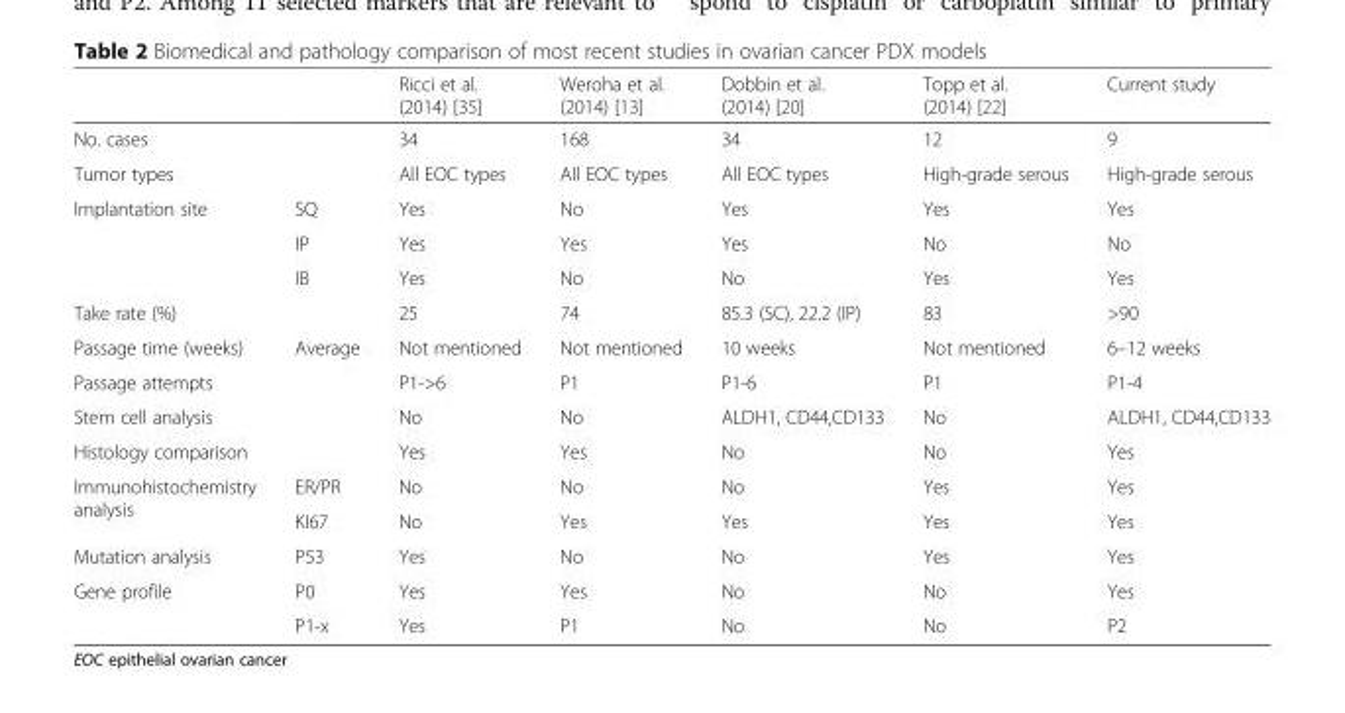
<table><thead><tr><td></td><td></td><td>Ricci et al. (2014) [35]</td><td>Weroha et al. (2014) [13]</td><td>Dobbin et al. (2014) [20]</td><td>Topp et al. (2014) [22]</td><td>Current study</td></tr></thead><tbody><tr><td>No. cases</td><td></td><td>34</td><td>168</td><td>34</td><td>12</td><td>9</td></tr><tr><td>Tumor types</td><td></td><td>All EOC types</td><td>All EOC types</td><td>All EOC types</td><td>High-grade serous</td><td>High-grade serous</td></tr><tr><td rowspan="3">Implantation site</td><td>SQ</td><td>Yes</td><td>No</td><td>Yes</td><td>Yes</td><td>Yes</td></tr><tr><td>IP</td><td>Yes</td><td>Yes</td><td>Yes</td><td>No</td><td>No</td></tr><tr><td>IB</td><td>Yes</td><td>No</td><td>No</td><td>Yes</td><td>Yes</td></tr><tr><td>Take rate (%)</td><td></td><td>25</td><td>74</td><td>85.3 (SC), 22.2 (IP)</td><td>83</td><td>&gt;90</td></tr><tr><td>Passage time (weeks)</td><td>Average</td><td>Not mentioned</td><td>Not mentioned</td><td>10 weeks</td><td>Not mentioned</td><td>6–12 weeks</td></tr><tr><td>Passage attempts</td><td></td><td>P1-&gt;6</td><td>P1</td><td>P1-6</td><td>P1</td><td>P1-4</td></tr><tr><td>Stem cell analysis</td><td></td><td>No</td><td>No</td><td>ALDH1, CD44,CD133</td><td>No</td><td>ALDH1, CD44,CD133</td></tr><tr><td>Histology comparison</td><td></td><td>Yes</td><td>Yes</td><td>No</td><td>No</td><td>Yes</td></tr><tr><td rowspan="2">Immunohistochemistry analysis</td><td>ER/PR</td><td>No</td><td>No</td><td>No</td><td>Yes</td><td>Yes</td></tr><tr><td>KI67</td><td>No</td><td>Yes</td><td>Yes</td><td>Yes</td><td>Yes</td></tr><tr><td>Mutation analysis</td><td>P53</td><td>Yes</td><td>No</td><td>No</td><td>Yes</td><td>Yes</td></tr><tr><td rowspan="2">Gene profile</td><td>P0</td><td>Yes</td><td>Yes</td><td>No</td><td>No</td><td>Yes</td></tr><tr><td>P1-x</td><td>Yes</td><td>P1</td><td>No</td><td>No</td><td>P2</td></tr></tbody></table>